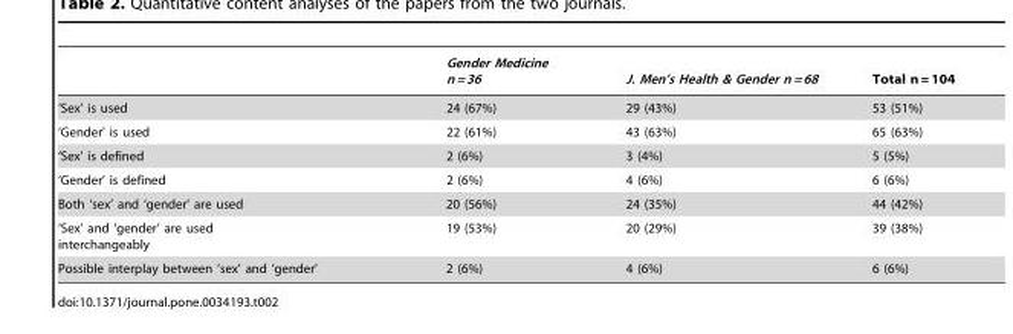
<table><thead><tr><td></td><td>Gender Medicine n = 36</td><td>J. Men’s Health &amp; Gender n = 68</td><td>Total n = 104</td></tr></thead><tbody><tr><td>‘Sex’ is used</td><td>24 (67%)</td><td>29 (43%)</td><td>53 (51%)</td></tr><tr><td>‘Gender’ is used</td><td>22 (61%)</td><td>43 (63%)</td><td>65 (63%)</td></tr><tr><td>‘Sex’ is defined</td><td>2 (6%)</td><td>3 (4%)</td><td>5 (5%)</td></tr><tr><td>‘Gender’ is defined</td><td>2 (6%)</td><td>4 (6%)</td><td>6 (6%)</td></tr><tr><td>Both ‘sex’ and ‘gender’ are used</td><td>20 (56%)</td><td>24 (35%)</td><td>44 (42%)</td></tr><tr><td>‘Sex’ and ‘gender’ are used interchangeably</td><td>19 (53%)</td><td>20 (29%)</td><td>39 (38%)</td></tr><tr><td>Possible interplay between ‘sex’ and ‘gender’</td><td>2 (6%)</td><td>4 (6%)</td><td>6 (6%)</td></tr></tbody></table>